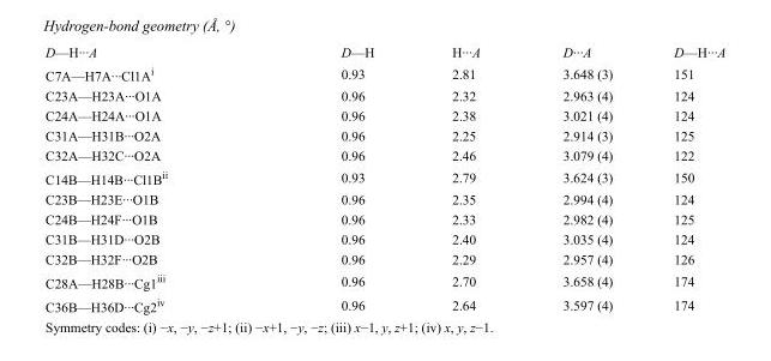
<table><tbody><tr><td>D—H···A</td><td>D—H</td><td>H···A</td><td>D···A</td><td>D—H···A</td></tr><tr><td>C7A—H7A···Cl1A<sup>i</sup></td><td>0.93</td><td>2.81</td><td>3.648 (3)</td><td>151</td></tr><tr><td>C23A—H23A···O1A</td><td>0.96</td><td>2.32</td><td>2.963 (4)</td><td>124</td></tr><tr><td>C24A—H24A···O1A</td><td>0.96</td><td>2.38</td><td>3.021 (4)</td><td>124</td></tr><tr><td>C31A—H31B···O2A</td><td>0.96</td><td>2.25</td><td>2.914 (3)</td><td>125</td></tr><tr><td>C32A—H32C···O2A</td><td>0.96</td><td>2.46</td><td>3.079 (4)</td><td>122</td></tr><tr><td>C14B—H14B···Cl1B<sup>ii</sup></td><td>0.93</td><td>2.79</td><td>3.624 (3)</td><td>150</td></tr><tr><td>C23B—H23E···O1B</td><td>0.96</td><td>2.35</td><td>2.994 (4)</td><td>124</td></tr><tr><td>C24B—H24F···O1B</td><td>0.96</td><td>2.33</td><td>2.982 (4)</td><td>125</td></tr><tr><td>C31B—H31D···O2B</td><td>0.96</td><td>2.40</td><td>3.035 (4)</td><td>124</td></tr><tr><td>C32B—H32F···O2B</td><td>0.96</td><td>2.29</td><td>2.957 (4)</td><td>126</td></tr><tr><td>C28A—H28B···Cg1<sup>iii</sup></td><td>0.96</td><td>2.70</td><td>3.658 (4)</td><td>174</td></tr><tr><td>C36B—H36D···Cg2<sup>iv</sup></td><td>0.96</td><td>2.64</td><td>3.597 (4)</td><td>174</td></tr></tbody></table>